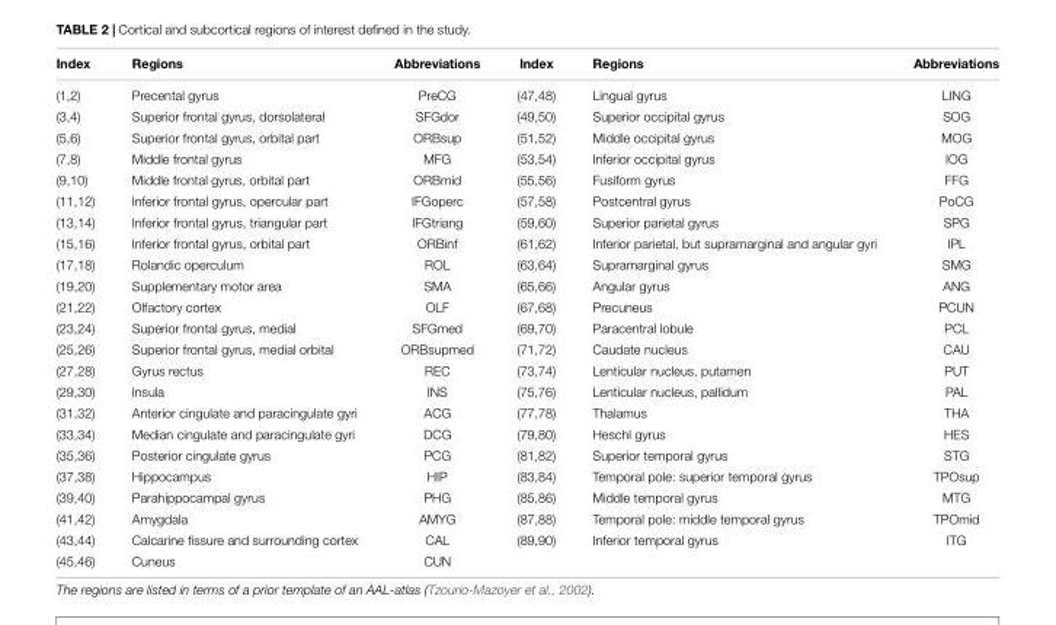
<table><thead><tr><td>Index</td><td>Regions</td><td>Abbreviations</td><td>Index</td><td>Regions</td><td>Abbreviations</td></tr></thead><tbody><tr><td>(1,2)</td><td>Precental gyrus</td><td>PreCG</td><td>(47,48)</td><td>Lingual gyrus</td><td>LING</td></tr><tr><td>(3,4)</td><td>Superior frontal gyrus, dorsolateral</td><td>SFGdor</td><td>(49,50)</td><td>Superior occipital gyrus</td><td>SOG</td></tr><tr><td>(5,6)</td><td>Superior frontal gyrus, orbital part</td><td>ORBsup</td><td>(51,52)</td><td>Middle occipital gyrus</td><td>MOG</td></tr><tr><td>(7,8)</td><td>Middle frontal gyrus</td><td>MFG</td><td>(53,54)</td><td>Inferior occipital gyrus</td><td>IOG</td></tr><tr><td>(9,10)</td><td>Middle frontal gyrus, orbital part</td><td>ORBmid</td><td>(55,56)</td><td>Fusiform gyrus</td><td>FFG</td></tr><tr><td>(11,12)</td><td>Inferior frontal gyrus, opercular part</td><td>IFGoperc</td><td>(57,58)</td><td>Postcentral gyrus</td><td>PoCG</td></tr><tr><td>(13,14)</td><td>Inferior frontal gyrus, triangular part</td><td>IFGtriang</td><td>(59,60)</td><td>Superior parietal gyrus</td><td>SPG</td></tr><tr><td>(15,16)</td><td>Inferior frontal gyrus, orbital part</td><td>ORBinf</td><td>(61,62)</td><td>Inferior parietal, but supramarginal and angular gyri</td><td>IPL</td></tr><tr><td>(17,18)</td><td>Rolandic operculum</td><td>ROL</td><td>(63,64)</td><td>Supramarginal gyrus</td><td>SMG</td></tr><tr><td>(19,20)</td><td>Supplementary motor area</td><td>SMA</td><td>(65,66)</td><td>Angular gyrus</td><td>ANG</td></tr><tr><td>(21,22)</td><td>Olfactory cortex</td><td>OLF</td><td>(67,68)</td><td>Precuneus</td><td>PCUN</td></tr><tr><td>(23,24)</td><td>Superior frontal gyrus, medial</td><td>SFGmed</td><td>(69,70)</td><td>Paracentral lobule</td><td>PCL</td></tr><tr><td>(25,26)</td><td>Superior frontal gyrus, medial orbital</td><td>ORBsupmed</td><td>(71,72)</td><td>Caudate nucleus</td><td>CAU</td></tr><tr><td>(27,28)</td><td>Gyrus rectus</td><td>REC</td><td>(73,74)</td><td>Lenticular nucleus, putamen</td><td>PUT</td></tr><tr><td>(29,30)</td><td>Insula</td><td>INS</td><td>(75,76)</td><td>Lenticular nucleus, pallidum</td><td>PAL</td></tr><tr><td>(31,32)</td><td>Anterior cingulate and paracingulate gyri</td><td>ACG</td><td>(77,78)</td><td>Thalamus</td><td>THA</td></tr><tr><td>(33,34)</td><td>Median cingulate and paracingulate gyri</td><td>DCG</td><td>(79,80)</td><td>Heschl gyrus</td><td>HES</td></tr><tr><td>(35,36)</td><td>Posterior cingulate gyrus</td><td>PCG</td><td>(81,82)</td><td>Superior temporal gyrus</td><td>STG</td></tr><tr><td>(37,38)</td><td>Hippocampus</td><td>HIP</td><td>(83,84)</td><td>Temporal pole: superior temporal gyrus</td><td>TPOsup</td></tr><tr><td>(39,40)</td><td>Parahippocampal gyrus</td><td>PHG</td><td>(85,86)</td><td>Middle temporal gyrus</td><td>MTG</td></tr><tr><td>(41,42)</td><td>Amygdala</td><td>AMYG</td><td>(87,88)</td><td>Temporal pole: middle temporal gyrus</td><td>TPOmid</td></tr><tr><td>(43,44)</td><td>Calcarine fissure and surrounding cortex</td><td>CAL</td><td>(89,90)</td><td>Inferior temporal gyrus</td><td>ITG</td></tr><tr><td>(45,46)</td><td>Cuneus</td><td>CUN</td><td></td><td></td><td></td></tr></tbody></table>